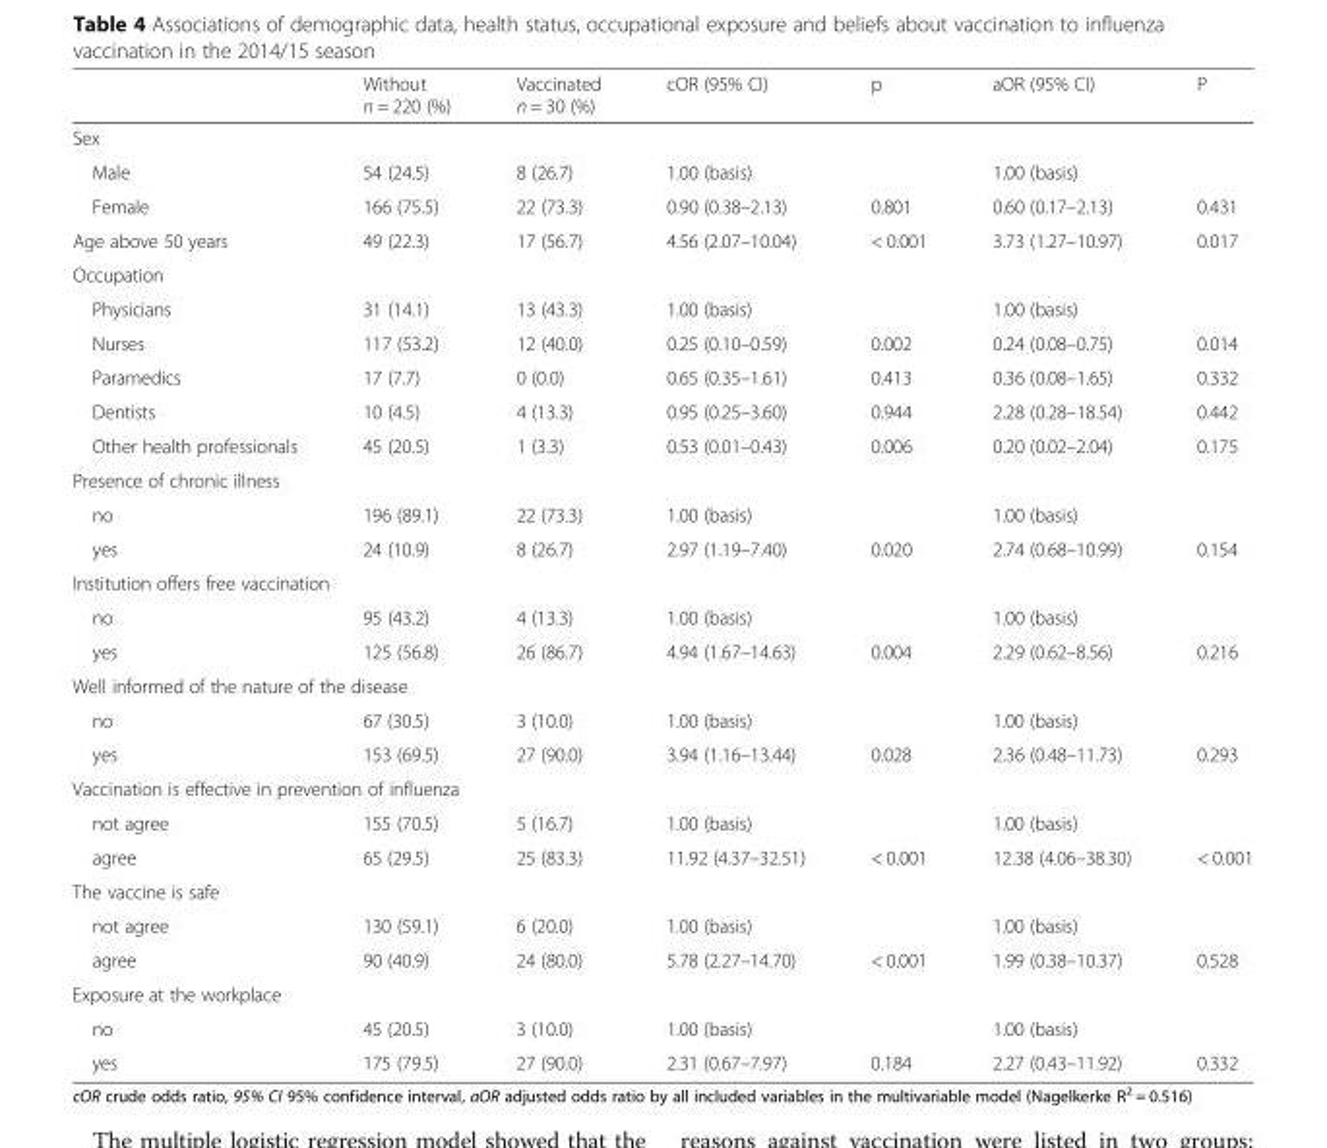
<table><thead><tr><td></td><td>Without n = 220 (%)</td><td>Vaccinated n = 30 (%)</td><td>cOR (95% CI)</td><td>p</td><td>aOR (95% CI)</td><td>P</td></tr></thead><tbody><tr><td colspan="7">Sex</td></tr><tr><td>Male</td><td>54 (24.5)</td><td>8 (26.7)</td><td>1.00 (basis)</td><td></td><td>1.00 (basis)</td><td></td></tr><tr><td>Female</td><td>166 (75.5)</td><td>22 (73.3)</td><td>0.90 (0.38–2.13)</td><td>0.801</td><td>0.60 (0.17–2.13)</td><td>0.431</td></tr><tr><td>Age above 50 years</td><td>49 (22.3)</td><td>17 (56.7)</td><td>4.56 (2.07–10.04)</td><td>&lt; 0.001</td><td>3.73 (1.27–10.97)</td><td>0.017</td></tr><tr><td colspan="7">Occupation</td></tr><tr><td>Physicians</td><td>31 (14.1)</td><td>13 (43.3)</td><td>1.00 (basis)</td><td></td><td>1.00 (basis)</td><td></td></tr><tr><td>Nurses</td><td>117 (53.2)</td><td>12 (40.0)</td><td>0.25 (0.10–0.59)</td><td>0.002</td><td>0.24 (0.08–0.75)</td><td>0.014</td></tr><tr><td>Paramedics</td><td>17 (7.7)</td><td>0 (0.0)</td><td>0.65 (0.35–1.61)</td><td>0.413</td><td>0.36 (0.08–1.65)</td><td>0.332</td></tr><tr><td>Dentists</td><td>10 (4.5)</td><td>4 (13.3)</td><td>0.95 (0.25–3.60)</td><td>0.944</td><td>2.28 (0.28–18.54)</td><td>0.442</td></tr><tr><td>Other health professionals</td><td>45 (20.5)</td><td>1 (3.3)</td><td>0.53 (0.01–0.43)</td><td>0.006</td><td>0.20 (0.02–2.04)</td><td>0.175</td></tr><tr><td colspan="7">Presence of chronic illness</td></tr><tr><td>no</td><td>196 (89.1)</td><td>22 (73.3)</td><td>1.00 (basis)</td><td></td><td>1.00 (basis)</td><td></td></tr><tr><td>yes</td><td>24 (10.9)</td><td>8 (26.7)</td><td>2.97 (1.19–7.40)</td><td>0.020</td><td>2.74 (0.68–10.99)</td><td>0.154</td></tr><tr><td colspan="7">Institution offers free vaccination</td></tr><tr><td>no</td><td>95 (43.2)</td><td>4 (13.3)</td><td>1.00 (basis)</td><td></td><td>1.00 (basis)</td><td></td></tr><tr><td>yes</td><td>125 (56.8)</td><td>26 (86.7)</td><td>4.94 (1.67–14.63)</td><td>0.004</td><td>2.29 (0.62–8.56)</td><td>0.216</td></tr><tr><td colspan="7">Well informed of the nature of the disease</td></tr><tr><td>no</td><td>67 (30.5)</td><td>3 (10.0)</td><td>1.00 (basis)</td><td></td><td>1.00 (basis)</td><td></td></tr><tr><td>yes</td><td>153 (69.5)</td><td>27 (90.0)</td><td>3.94 (1.16–13.44)</td><td>0.028</td><td>2.36 (0.48–11.73)</td><td>0.293</td></tr><tr><td colspan="7">Vaccination is effective in prevention of influenza</td></tr><tr><td>not agree</td><td>155 (70.5)</td><td>5 (16.7)</td><td>1.00 (basis)</td><td></td><td>1.00 (basis)</td><td></td></tr><tr><td>agree</td><td>65 (29.5)</td><td>25 (83.3)</td><td>11.92 (4.37–32.51)</td><td>&lt; 0.001</td><td>12.38 (4.06–38.30)</td><td>&lt; 0.001</td></tr><tr><td colspan="7">The vaccine is safe</td></tr><tr><td>not agree</td><td>130 (59.1)</td><td>6 (20.0)</td><td>1.00 (basis)</td><td></td><td>1.00 (basis)</td><td></td></tr><tr><td>agree</td><td>90 (40.9)</td><td>24 (80.0)</td><td>5.78 (2.27–14.70)</td><td>&lt; 0.001</td><td>1.99 (0.38–10.37)</td><td>0.528</td></tr><tr><td colspan="7">Exposure at the workplace</td></tr><tr><td>no</td><td>45 (20.5)</td><td>3 (10.0)</td><td>1.00 (basis)</td><td></td><td>1.00 (basis)</td><td></td></tr><tr><td>yes</td><td>175 (79.5)</td><td>27 (90.0)</td><td>2.31 (0.67–7.97)</td><td>0.184</td><td>2.27 (0.43–11.92)</td><td>0.332</td></tr></tbody></table>